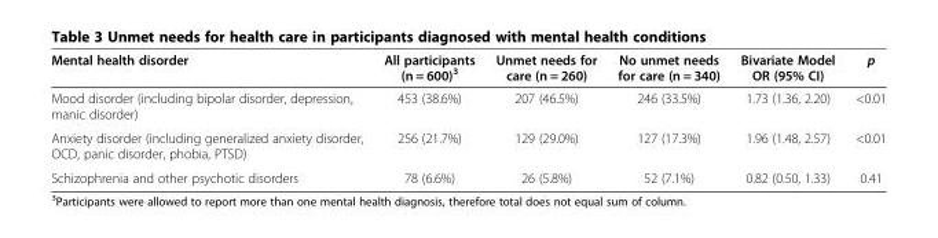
<table><thead><tr><td>Mental health disorder</td><td>All participants (n = 600)<sup>3</sup></td><td>Unmet needs for care (n = 260)</td><td>No unmet needs for care (n = 340)</td><td>Bivariate Model OR (95% CI)</td><td>p</td></tr></thead><tbody><tr><td>Mood disorder (including bipolar disorder, depression, manic disorder)</td><td>453 (38.6%)</td><td>207 (46.5%)</td><td>246 (33.5%)</td><td>1.73 (1.36, 2.20)</td><td>&lt;0.01</td></tr><tr><td>Anxiety disorder (including generalized anxiety disorder, OCD, panic disorder, phobia, PTSD)</td><td>256 (21.7%)</td><td>129 (29.0%)</td><td>127 (17.3%)</td><td>1.96 (1.48, 2.57)</td><td>&lt;0.01</td></tr><tr><td>Schizophrenia and other psychotic disorders</td><td>78 (6.6%)</td><td>26 (5.8%)</td><td>52 (7.1%)</td><td>0.82 (0.50, 1.33)</td><td>0.41</td></tr></tbody></table>